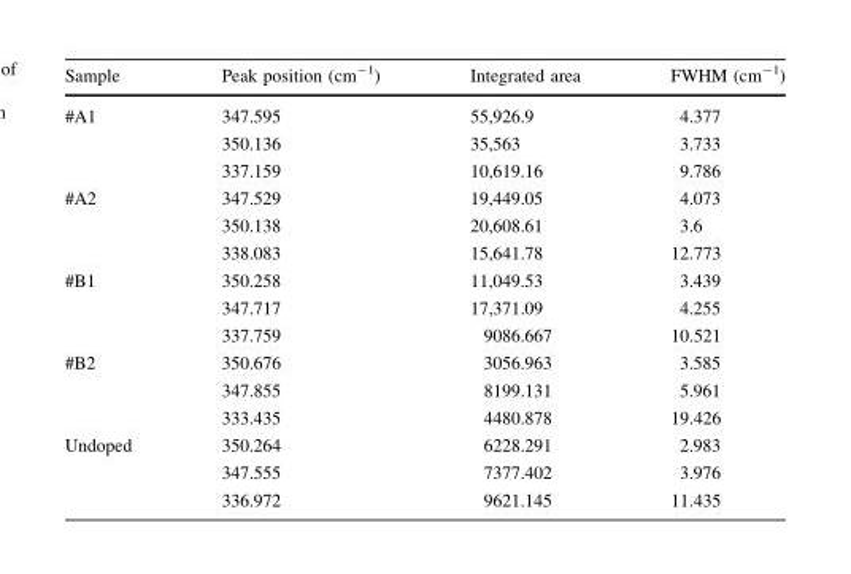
<table><thead><tr><td>Sample</td><td>Peak position (cm<sup>-1</sup>)</td><td>Integrated area</td><td>FWHM (cm<sup>-1</sup>)</td></tr></thead><tbody><tr><td rowspan="3">#A1</td><td>347.595</td><td>55,926.9</td><td>4.377</td></tr><tr><td>350.136</td><td>35,563</td><td>3.733</td></tr><tr><td>337.159</td><td>10,619.16</td><td>9.786</td></tr><tr><td rowspan="3">#A2</td><td>347.529</td><td>19,449.05</td><td>4.073</td></tr><tr><td>350.138</td><td>20,608.61</td><td>3.6</td></tr><tr><td>338.083</td><td>15,641.78</td><td>12.773</td></tr><tr><td rowspan="3">#B1</td><td>350.258</td><td>11,049.53</td><td>3.439</td></tr><tr><td>347.717</td><td>17,371.09</td><td>4.255</td></tr><tr><td>337.759</td><td>9086.667</td><td>10.521</td></tr><tr><td rowspan="3">#B2</td><td>350.676</td><td>3056.963</td><td>3.585</td></tr><tr><td>347.855</td><td>8199.131</td><td>5.961</td></tr><tr><td>333.435</td><td>4480.878</td><td>19.426</td></tr><tr><td rowspan="3">Undoped</td><td>350.264</td><td>6228.291</td><td>2.983</td></tr><tr><td>347.555</td><td>7377.402</td><td>3.976</td></tr><tr><td>336.972</td><td>9621.145</td><td>11.435</td></tr></tbody></table>